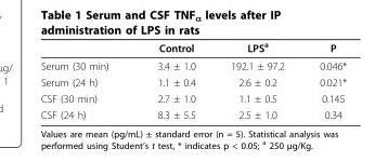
<table><thead><tr><td></td><td>Control</td><td>LPS<sup>a</sup></td><td>P</td></tr></thead><tbody><tr><td>Serum (30 min)</td><td>3.4 ± 1.0</td><td>192.1 ± 97.2</td><td>0.046*</td></tr><tr><td>Serum (24 h)</td><td>1.1 ± 0.4</td><td>2.6 ± 0.2</td><td>0.021*</td></tr><tr><td>CSF (30 min)</td><td>2.7 ± 1.0</td><td>1.1 ± 0.5</td><td>0.145</td></tr><tr><td>CSF (24 h)</td><td>8.3 ± 5.5</td><td>2.5 ± 1.0</td><td>0.34</td></tr></tbody></table>